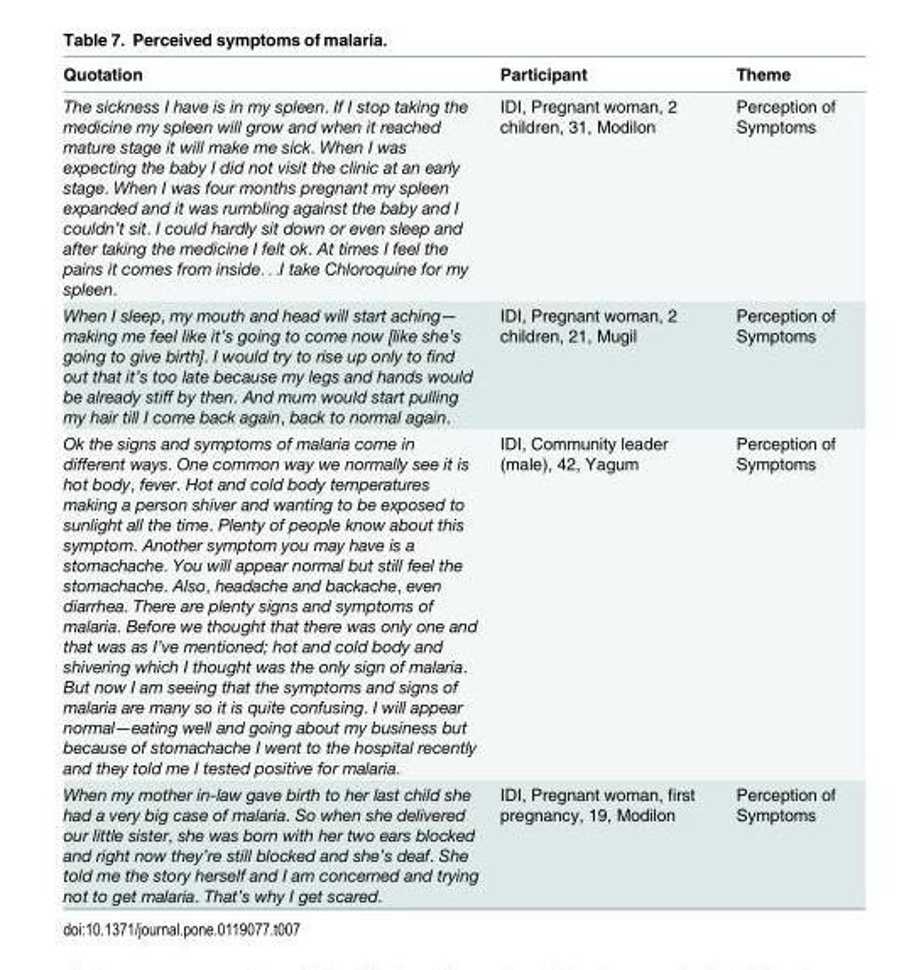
<table><thead><tr><td>Quotation</td><td>Participant</td><td>Theme</td></tr></thead><tbody><tr><td>The sickness I have is in my spleen. If I stop taking the medicine my spleen will grow and when it reached mature stage it will make me sick. When I was expecting the baby I did not visit the clinic at an early stage. When I was four months pregnant my spleen expanded and it was rumbling against the baby and I couldn’t sit. I could hardly sit down or even sleep and after taking the medicine I felt ok. At times I feel the pains it comes from inside. . .I take Chloroquine for my spleen.</td><td>IDI, Pregnant woman, 2 children, 31, Modilon</td><td>Perception of Symptoms</td></tr><tr><td>When I sleep, my mouth and head will start aching— making me feel like it’s going to come now [like she’s going to give birth]. I would try to rise up only to find out that it’s too late because my legs and hands would be already stiff by then. And mum would start pulling my hair till I come back again, back to normal again.</td><td>IDI, Pregnant woman, 2 children, 21, Mugil</td><td>Perception of Symptoms</td></tr><tr><td>Ok the signs and symptoms of malaria come in different ways. One common way we normally see it is hot body, fever. Hot and cold body temperatures making a person shiver and wanting to be exposed to sunlight all the time. Plenty of people know about this symptom. Another symptom you may have is a stomachache. You will appear normal but still feel the stomachache. Also, headache and backache, even diarrhea. There are plenty signs and symptoms of malaria. Before we thought that there was only one and that was as I’ve mentioned; hot and cold body and shivering which I thought was the only sign of malaria. But now I am seeing that the symptoms and signs of malaria are many so it is quite confusing. I will appear normal—eating well and going about my business but because of stomachache I went to the hospital recently and they told me I tested positive for malaria.</td><td>IDI, Community leader (male), 42, Yagum</td><td>Perception of Symptoms</td></tr><tr><td>When my mother in-law gave birth to her last child she had a very big case of malaria. So when she delivered our little sister, she was born with her two ears blocked and right now they’re still blocked and she’s deaf. She told me the story herself and I am concerned and trying not to get malaria. That’s why I get scared.</td><td>IDI, Pregnant woman, first pregnancy, 19, Modilon</td><td>Perception of Symptoms</td></tr></tbody></table>